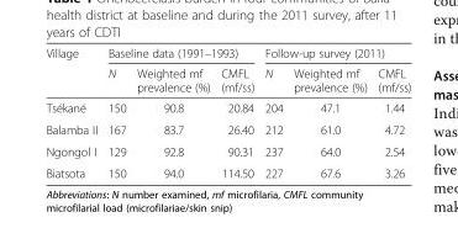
<table><thead><tr><td rowspan="2">Village</td><td colspan="3">Baseline data (1991–1993)</td><td colspan="3">Follow-up survey (2011)</td></tr><tr><td>N</td><td>Weighted mf prevalence (%)</td><td>CMFL (mf/ss)</td><td>N</td><td>Weighted mf prevalence (%)</td><td>CMFL (mf/ss)</td></tr></thead><tbody><tr><td>Tsékané</td><td>150</td><td>90.8</td><td>20.84</td><td>204</td><td>47.1</td><td>1.44</td></tr><tr><td>Balamba II</td><td>167</td><td>83.7</td><td>26.40</td><td>212</td><td>61.0</td><td>4.72</td></tr><tr><td>Ngongol I</td><td>129</td><td>92.8</td><td>90.31</td><td>237</td><td>64.0</td><td>2.54</td></tr><tr><td>Biatsota</td><td>150</td><td>94.0</td><td>114.50</td><td>227</td><td>67.6</td><td>3.26</td></tr></tbody></table>